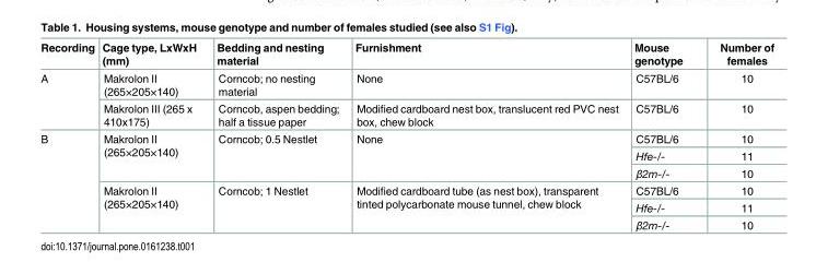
<table><thead><tr><td>Recording</td><td>Cage type, LxWxH (mm)</td><td>Bedding and nesting material</td><td>Furnishment</td><td>Mouse genotype</td><td>Number of females</td></tr></thead><tbody><tr><td rowspan="2">A</td><td>Makrolon II (265×205×140)</td><td>Corncob; no nesting material</td><td>None</td><td>C57BL/6</td><td>10</td></tr><tr><td>Makrolon III (265 x 410x175)</td><td>Corncob, aspen bedding; half a tissue paper</td><td>Modified cardboard nest box, translucent red PVC nest box, chew block</td><td>C57BL/6</td><td>10</td></tr><tr><td rowspan="6">B</td><td rowspan="3">Makrolon II (265×205×140)</td><td rowspan="3">Corncob; 0.5 Nestlet</td><td rowspan="3">None</td><td>C57BL/6</td><td>10</td></tr><tr><td>Hfe-/-</td><td>11</td></tr><tr><td>β2m-/-</td><td>10</td></tr><tr><td rowspan="3">Makrolon II (265×205×140)</td><td rowspan="3">Corncob; 1 Nestlet</td><td rowspan="3">Modified cardboard tube (as nest box), transparent tinted polycarbonate mouse tunnel, chew block</td><td>C57BL/6</td><td>10</td></tr><tr><td>Hfe-/-</td><td>11</td></tr><tr><td>β2m-/-</td><td>10</td></tr></tbody></table>